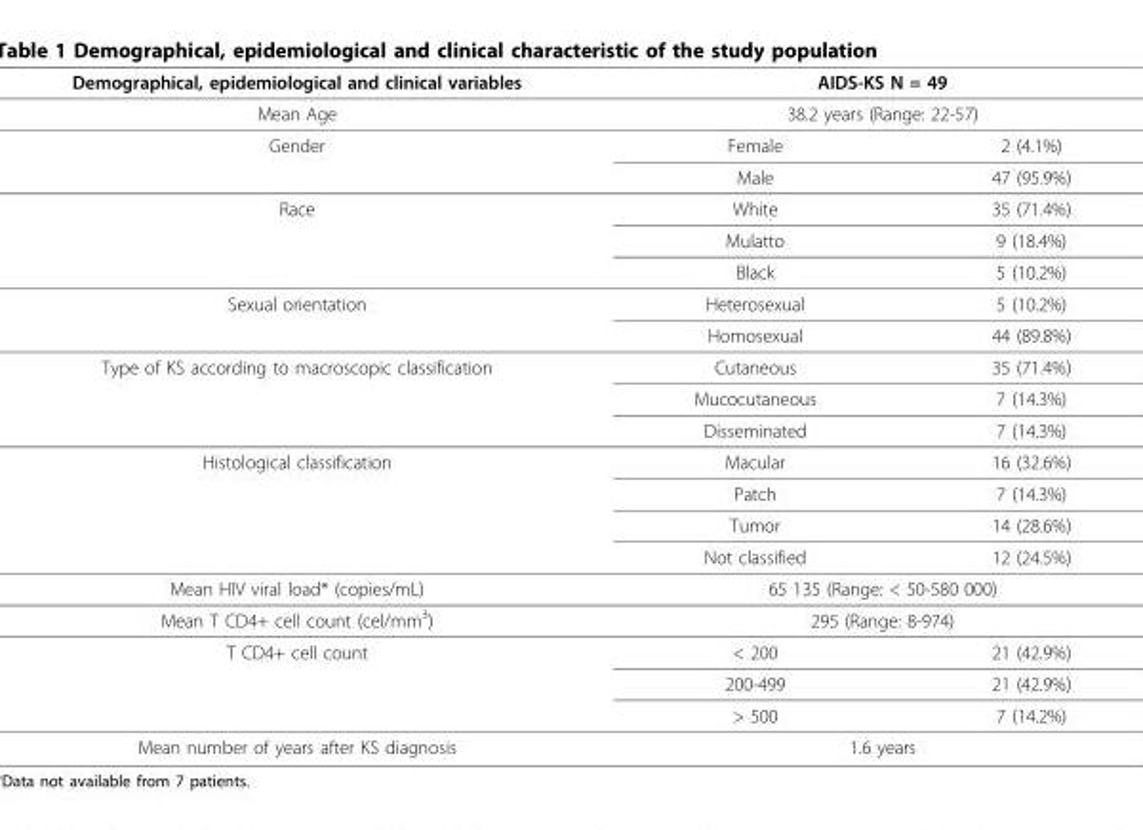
<table><thead><tr><td rowspan="3">Demographical, epidemiological and clinical variables Mean Age Gender</td><td rowspan="2" colspan="2">AIDS-KS N = 49 38.2 years (Range: 22-57)</td></tr><tr></tr><tr><td>Female</td><td>2 (4.1%)</td></tr></thead><tbody><tr><td></td><td>Male</td><td>47 (95.9%)</td></tr><tr><td rowspan="3">Race</td><td>White</td><td>35 (71.4%)</td></tr><tr><td>Mulatto</td><td>9 (18.4%)</td></tr><tr><td>Black</td><td>5 (10.2%)</td></tr><tr><td rowspan="2">Sexual orientation</td><td>Heterosexual</td><td>5 (10.2%)</td></tr><tr><td>Homosexual</td><td>44 (89.8%)</td></tr><tr><td rowspan="3">Type of KS according to macroscopic classification</td><td>Cutaneous</td><td>35 (71.4%)</td></tr><tr><td>Mucocutaneous</td><td>7 (14.3%)</td></tr><tr><td>Disseminated</td><td>7 (14.3%)</td></tr><tr><td rowspan="4">Histological classification</td><td>Macular</td><td>16 (32.6%)</td></tr><tr><td>Patch</td><td>7 (14.3%)</td></tr><tr><td>Tumor</td><td>14 (28.6%)</td></tr><tr><td>Not classified</td><td>12 (24.5%)</td></tr><tr><td>Mean HIV viral load* (copies/mL)</td><td colspan="2">65 135 (Range: &lt; 50-580 000)</td></tr><tr><td>Mean T CD4+ cell count (cel/mm<sup>3</sup>)</td><td colspan="2">295 (Range: 8-974)</td></tr><tr><td rowspan="3">T CD4+ cell count</td><td>&lt; 200</td><td>21 (42.9%)</td></tr><tr><td>200-499</td><td>21 (42.9%)</td></tr><tr><td>&gt; 500</td><td>7 (14.2%)</td></tr><tr><td>Mean number of years after KS diagnosis</td><td colspan="2">1.6 years</td></tr></tbody></table>